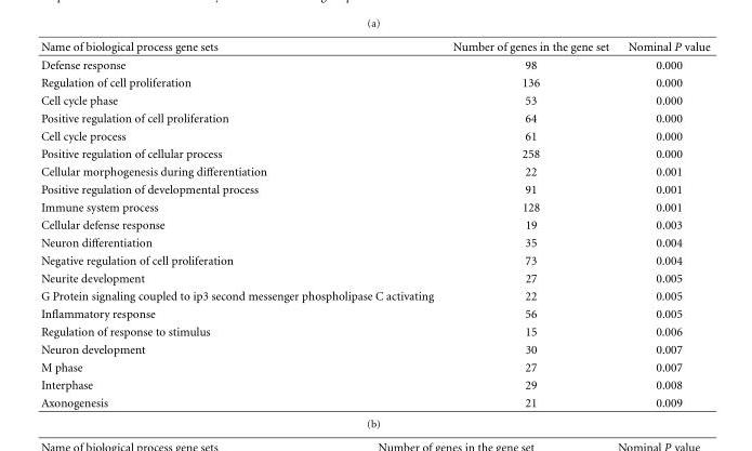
<table><thead><tr><td>Name of biological process gene sets</td><td>Number of genes in the gene set</td><td>Nominal P value</td></tr></thead><tbody><tr><td>Defense response</td><td>98</td><td>0.000</td></tr><tr><td>Regulation of cell proliferation</td><td>136</td><td>0.000</td></tr><tr><td>Cell cycle phase</td><td>53</td><td>0.000</td></tr><tr><td>Positive regulation of cell proliferation</td><td>64</td><td>0.000</td></tr><tr><td>Cell cycle process</td><td>61</td><td>0.000</td></tr><tr><td>Positive regulation of cellular process</td><td>258</td><td>0.000</td></tr><tr><td>Cellular morphogenesis during differentiation</td><td>22</td><td>0.001</td></tr><tr><td>Positive regulation of developmental process</td><td>91</td><td>0.001</td></tr><tr><td>Immune system process</td><td>128</td><td>0.001</td></tr><tr><td>Cellular defense response</td><td>19</td><td>0.003</td></tr><tr><td>Neuron differentiation</td><td>35</td><td>0.004</td></tr><tr><td>Negative regulation of cell proliferation</td><td>73</td><td>0.004</td></tr><tr><td>Neurite development</td><td>27</td><td>0.005</td></tr><tr><td>G Protein signaling coupled to ip3 second messenger phospholipase C activating</td><td>22</td><td>0.005</td></tr><tr><td>Inflammatory response</td><td>56</td><td>0.005</td></tr><tr><td>Regulation of response to stimulus</td><td>15</td><td>0.006</td></tr><tr><td>Neuron development</td><td>30</td><td>0.007</td></tr><tr><td>M phase</td><td>27</td><td>0.007</td></tr><tr><td>Interphase</td><td>29</td><td>0.008</td></tr><tr><td>Axonogenesis</td><td>21</td><td>0.009</td></tr></tbody></table>